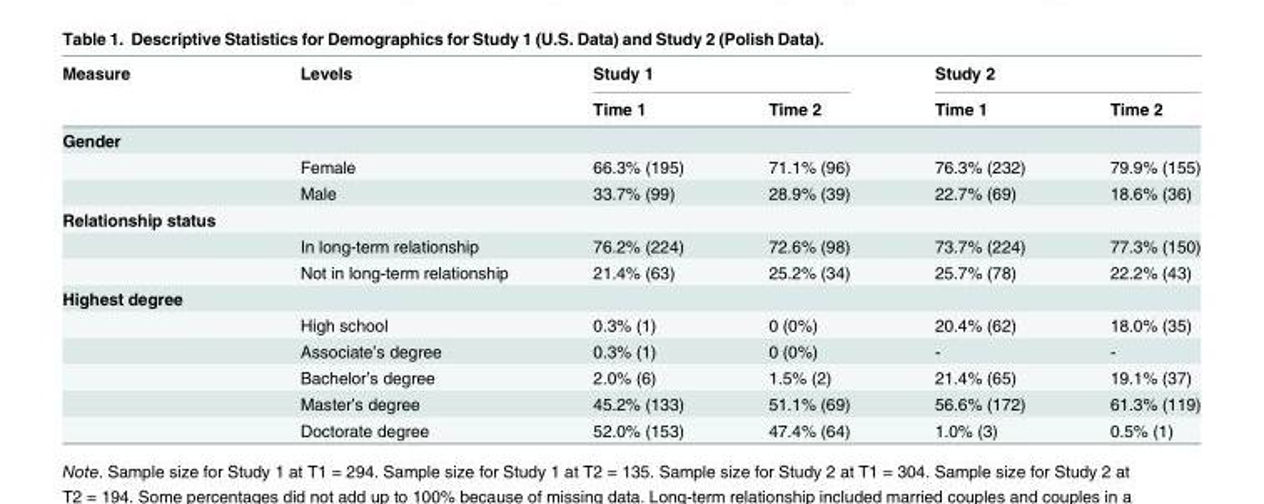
<table><thead><tr><td rowspan="2">Measure</td><td rowspan="2">Levels</td><td colspan="2">Study 1</td><td colspan="2">Study 2</td></tr><tr><td>Time 1</td><td>Time 2</td><td>Time 1</td><td>Time 2</td></tr></thead><tbody><tr><td colspan="6">Gender</td></tr><tr><td></td><td>Female</td><td>66.3% (195)</td><td>71.1% (96)</td><td>76.3% (232)</td><td>79.9% (155)</td></tr><tr><td></td><td>Male</td><td>33.7% (99)</td><td>28.9% (39)</td><td>22.7% (69)</td><td>18.6% (36)</td></tr><tr><td colspan="6">Relationship status</td></tr><tr><td></td><td>In long-term relationship</td><td>76.2% (224)</td><td>72.6% (98)</td><td>73.7% (224)</td><td>77.3% (150)</td></tr><tr><td></td><td>Not in long-term relationship</td><td>21.4% (63)</td><td>25.2% (34)</td><td>25.7% (78)</td><td>22.2% (43)</td></tr><tr><td colspan="6">Highest degree</td></tr><tr><td></td><td>High school</td><td>0.3% (1)</td><td>0 (0%)</td><td>20.4% (62)</td><td>18.0% (35)</td></tr><tr><td></td><td>Associate’s degree</td><td>0.3% (1)</td><td>0 (0%)</td><td>-</td><td>-</td></tr><tr><td></td><td>Bachelor’s degree</td><td>2.0% (6)</td><td>1.5% (2)</td><td>21.4% (65)</td><td>19.1% (37)</td></tr><tr><td></td><td>Master’s degree</td><td>45.2% (133)</td><td>51.1% (69)</td><td>56.6% (172)</td><td>61.3% (119)</td></tr><tr><td></td><td>Doctorate degree</td><td>52.0% (153)</td><td>47.4% (64)</td><td>1.0% (3)</td><td>0.5% (1)</td></tr></tbody></table>